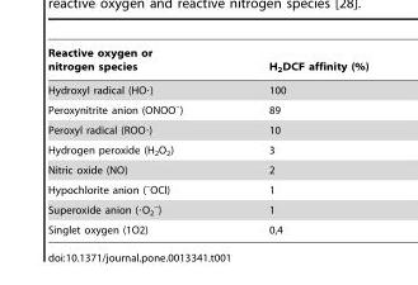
<table><thead><tr><td>Reactive oxygen or nitrogen species</td><td>H<sub>2</sub>DCF affinity (%)</td></tr></thead><tbody><tr><td>Hydroxyl radical (HO·)</td><td>100</td></tr><tr><td>Peroxynitrite anion (ONOO<sup>–</sup>)</td><td>89</td></tr><tr><td>Peroxyl radical (ROO·)</td><td>10</td></tr><tr><td>Hydrogen peroxide (H<sub>2</sub>O<sub>2</sub>)</td><td>3</td></tr><tr><td>Nitric oxide (NO)</td><td>2</td></tr><tr><td>Hypochlorite anion (<sup>–</sup>OCl)</td><td>1</td></tr><tr><td>Superoxide anion (·O<sub>2</sub> <sup>–</sup>)</td><td>1</td></tr><tr><td>Singlet oxygen (1O2)</td><td>0,4</td></tr></tbody></table>